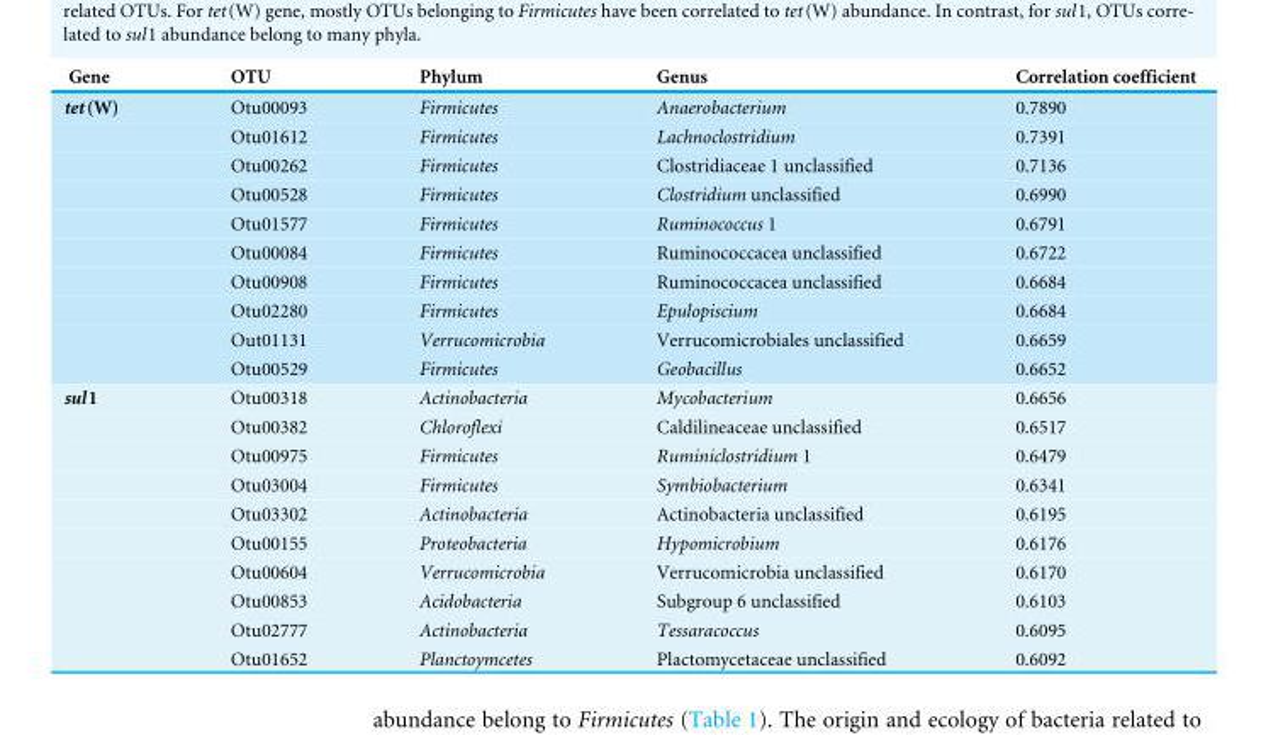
<table><thead><tr><td>Gene</td><td>OTU</td><td>Phylum</td><td>Genus</td><td>Correlation coefficient</td></tr></thead><tbody><tr><td rowspan="10">tet(W)</td><td>Otu00093</td><td>Firmicutes</td><td>Anaerobacterium</td><td>0.7890</td></tr><tr><td>Otu01612</td><td>Firmicutes</td><td>Lachnoclostridium</td><td>0.7391</td></tr><tr><td>Otu00262</td><td>Firmicutes</td><td>Clostridiaceae 1 unclassified</td><td>0.7136</td></tr><tr><td>Otu00528</td><td>Firmicutes</td><td>Clostridium unclassified</td><td>0.6990</td></tr><tr><td>Otu01577</td><td>Firmicutes</td><td>Ruminococcus 1</td><td>0.6791</td></tr><tr><td>Otu00084</td><td>Firmicutes</td><td>Ruminococcacea unclassified</td><td>0.6722</td></tr><tr><td>Otu00908</td><td>Firmicutes</td><td>Ruminococcacea unclassified</td><td>0.6684</td></tr><tr><td>Otu02280</td><td>Firmicutes</td><td>Epulopiscium</td><td>0.6684</td></tr><tr><td>Out01131</td><td>Verrucomicrobia</td><td>Verrucomicrobiales unclassified</td><td>0.6659</td></tr><tr><td>Otu00529</td><td>Firmicutes</td><td>Geobacillus</td><td>0.6652</td></tr><tr><td rowspan="10">sul1</td><td>Otu00318</td><td>Actinobacteria</td><td>Mycobacterium</td><td>0.6656</td></tr><tr><td>Otu00382</td><td>Chloroflexi</td><td>Caldilineaceae unclassified</td><td>0.6517</td></tr><tr><td>Otu00975</td><td>Firmicutes</td><td>Ruminiclostridium 1</td><td>0.6479</td></tr><tr><td>Otu03004</td><td>Firmicutes</td><td>Symbiobacterium</td><td>0.6341</td></tr><tr><td>Otu03302</td><td>Actinobacteria</td><td>Actinobacteria unclassified</td><td>0.6195</td></tr><tr><td>Otu00155</td><td>Proteobacteria</td><td>Hypomicrobium</td><td>0.6176</td></tr><tr><td>Otu00604</td><td>Verrucomicrobia</td><td>Verrucomicrobia unclassified</td><td>0.6170</td></tr><tr><td>Otu00853</td><td>Acidobacteria</td><td>Subgroup 6 unclassified</td><td>0.6103</td></tr><tr><td>Otu02777</td><td>Actinobacteria</td><td>Tessaracoccus</td><td>0.6095</td></tr><tr><td>Otu01652</td><td>Planctoymcetes</td><td>Plactomycetaceae unclassified</td><td>0.6092</td></tr></tbody></table>